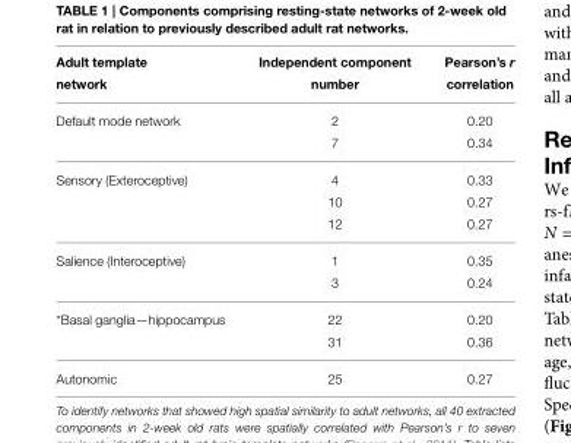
<table><thead><tr><td>Adult template network</td><td>Independent component number</td><td>Pearson’s r correlation</td></tr></thead><tbody><tr><td rowspan="2">Default mode network</td><td>2</td><td>0.20</td></tr><tr><td>7</td><td>0.34</td></tr><tr><td rowspan="3">Sensory (Exteroceptive)</td><td>4</td><td>0.33</td></tr><tr><td>10</td><td>0.27</td></tr><tr><td>12</td><td>0.27</td></tr><tr><td rowspan="2">Salience (Interoceptive)</td><td>1</td><td>0.35</td></tr><tr><td>3</td><td>0.24</td></tr><tr><td rowspan="2">*Basal ganglia—hippocampus</td><td>22</td><td>0.20</td></tr><tr><td>31</td><td>0.36</td></tr><tr><td>Autonomic</td><td>25</td><td>0.27</td></tr></tbody></table>